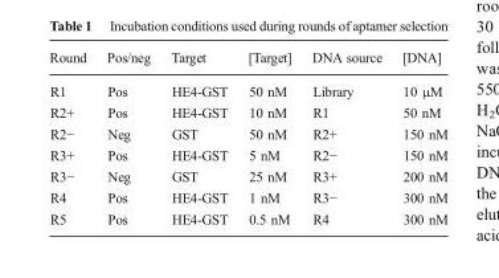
<table><thead><tr><td>Round</td><td>Pos/neg</td><td>Target</td><td>[Target]</td><td>DNA source</td><td>[DNA]</td></tr></thead><tbody><tr><td>R1</td><td>Pos</td><td>HE4-GST</td><td>50 nM</td><td>Library</td><td>10 μM</td></tr><tr><td>R2+</td><td>Pos</td><td>HE4-GST</td><td>10 nM</td><td>R1</td><td>50 nM</td></tr><tr><td>R2−</td><td>Neg</td><td>GST</td><td>50 nM</td><td>R2+</td><td>150 nM</td></tr><tr><td>R3+</td><td>Pos</td><td>HE4-GST</td><td>5 nM</td><td>R2−</td><td>150 nM</td></tr><tr><td>R3−</td><td>Neg</td><td>GST</td><td>25 nM</td><td>R3+</td><td>200 nM</td></tr><tr><td>R4</td><td>Pos</td><td>HE4-GST</td><td>1 nM</td><td>R3−</td><td>300 nM</td></tr><tr><td>R5</td><td>Pos</td><td>HE4-GST</td><td>0.5 nM</td><td>R4</td><td>300 nM</td></tr></tbody></table>